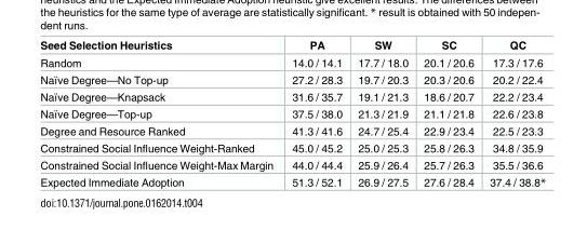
<table><thead><tr><td>Seed Selection Heuristics</td><td>PA</td><td>SW</td><td>SC</td><td>QC</td></tr></thead><tbody><tr><td>Random</td><td>14.0 / 14.1</td><td>17.7 / 18.0</td><td>20.1 / 20.6</td><td>17.3 / 17.6</td></tr><tr><td>Naïve Degree—No Top-up</td><td>27.2 / 28.3</td><td>19.7 / 20.3</td><td>20.3 / 20.6</td><td>20.2 / 22.4</td></tr><tr><td>Naïve Degree—Knapsack</td><td>31.6 / 35.7</td><td>19.1 / 21.3</td><td>18.6 / 20.7</td><td>22.2 / 23.4</td></tr><tr><td>Naïve Degree—Top-up</td><td>37.5 / 38.0</td><td>21.3 / 21.9</td><td>21.1 / 21.8</td><td>22.6 / 23.8</td></tr><tr><td>Degree and Resource Ranked</td><td>41.3 / 41.6</td><td>24.7 / 25.4</td><td>22.9 / 23.4</td><td>22.5 / 23.3</td></tr><tr><td>Constrained Social Influence Weight-Ranked</td><td>45.0 / 45.2</td><td>25.0 / 25.3</td><td>25.8 / 26.3</td><td>34.8 / 35.9</td></tr><tr><td>Constrained Social Influence Weight-Max Margin</td><td>44.0 / 44.4</td><td>25.9 / 26.4</td><td>25.7 / 26.3</td><td>35.5 / 36.6</td></tr><tr><td>Expected Immediate Adoption</td><td>51.3 / 52.1</td><td>26.9 / 27.5</td><td>27.6 / 28.4</td><td>37.4 / 38.8*</td></tr></tbody></table>